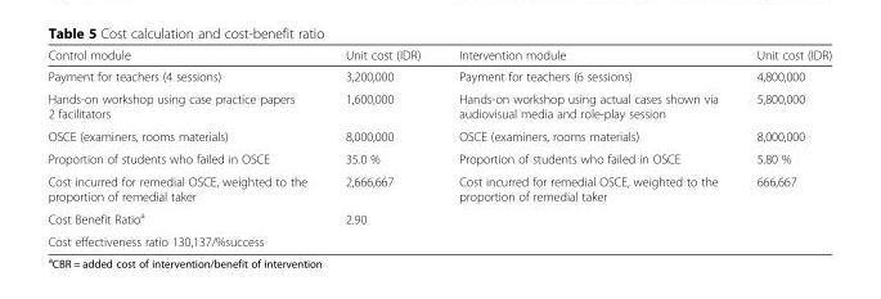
<table><thead><tr><td>Control module</td><td>Unit cost (IDR)</td><td>Intervention module</td><td>Unit cost (IDR)</td></tr></thead><tbody><tr><td>Payment for teachers (4 sessions)</td><td>3,200,000</td><td>Payment for teachers (6 sessions)</td><td>4,800,000</td></tr><tr><td>Hands-on workshop using case practice papers 2 facilitators</td><td>1,600,000</td><td>Hands-on workshop using actual cases shown via audiovisual media and role-play session</td><td>5,800,000</td></tr><tr><td>OSCE (examiners, rooms materials)</td><td>8,000,000</td><td>OSCE (examiners, rooms materials)</td><td>8,000,000</td></tr><tr><td>Proportion of students who failed in OSCE</td><td>35.0 %</td><td>Proportion of students who failed in OSCE</td><td>5.80 %</td></tr><tr><td>Cost incurred for remedial OSCE, weighted to the proportion of remedial taker</td><td>2,666,667</td><td>Cost incurred for remedial OSCE, weighted to the proportion of remedial taker</td><td>666,667</td></tr><tr><td>Cost Benefit Ratio<sup>a</sup></td><td>2.90</td><td></td><td></td></tr><tr><td colspan="3">Cost effectiveness ratio 130,137/%success</td><td></td></tr></tbody></table>